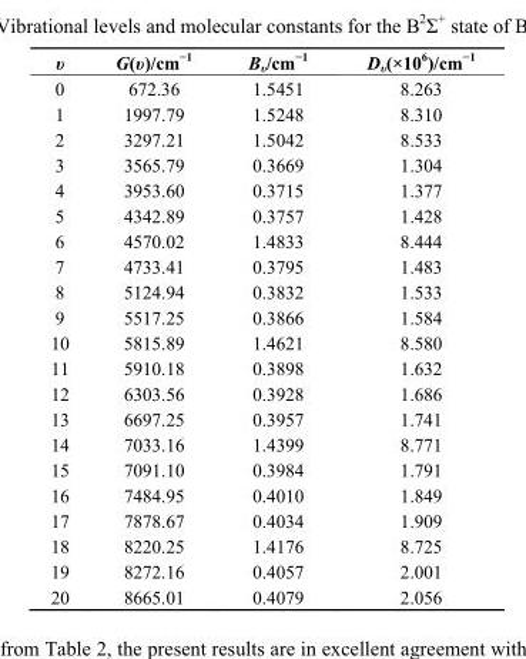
<table><thead><tr><td>υ</td><td>G(υ)/cm<sup>−1</sup></td><td>B<sub>υ</sub>/cm<sup>−1</sup></td><td>D<sub>υ</sub>(×10<sup>6</sup>)/cm<sup>−1</sup></td></tr></thead><tbody><tr><td>0</td><td>672.36</td><td>1.5451</td><td>8.263</td></tr><tr><td>1</td><td>1997.79</td><td>1.5248</td><td>8.310</td></tr><tr><td>2</td><td>3297.21</td><td>1.5042</td><td>8.533</td></tr><tr><td>3</td><td>3565.79</td><td>0.3669</td><td>1.304</td></tr><tr><td>4</td><td>3953.60</td><td>0.3715</td><td>1.377</td></tr><tr><td>5</td><td>4342.89</td><td>0.3757</td><td>1.428</td></tr><tr><td>6</td><td>4570.02</td><td>1.4833</td><td>8.444</td></tr><tr><td>7</td><td>4733.41</td><td>0.3795</td><td>1.483</td></tr><tr><td>8</td><td>5124.94</td><td>0.3832</td><td>1.533</td></tr><tr><td>9</td><td>5517.25</td><td>0.3866</td><td>1.584</td></tr><tr><td>10</td><td>5815.89</td><td>1.4621</td><td>8.580</td></tr><tr><td>11</td><td>5910.18</td><td>0.3898</td><td>1.632</td></tr><tr><td>12</td><td>6303.56</td><td>0.3928</td><td>1.686</td></tr><tr><td>13</td><td>6697.25</td><td>0.3957</td><td>1.741</td></tr><tr><td>14</td><td>7033.16</td><td>1.4399</td><td>8.771</td></tr><tr><td>15</td><td>7091.10</td><td>0.3984</td><td>1.791</td></tr><tr><td>16</td><td>7484.95</td><td>0.4010</td><td>1.849</td></tr><tr><td>17</td><td>7878.67</td><td>0.4034</td><td>1.909</td></tr><tr><td>18</td><td>8220.25</td><td>1.4176</td><td>8.725</td></tr><tr><td>19</td><td>8272.16</td><td>0.4057</td><td>2.001</td></tr><tr><td>20</td><td>8665.01</td><td>0.4079</td><td>2.056</td></tr></tbody></table>